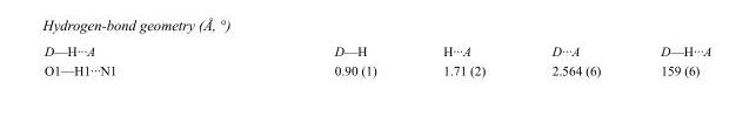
<table><tbody><tr><td>D—H···A</td><td>D—H</td><td>H···A</td><td>D···A</td><td>D—H···A</td></tr><tr><td>O1—H1···N1</td><td>0.90 (1)</td><td>1.71 (2)</td><td>2.564 (6)</td><td>159 (6)</td></tr></tbody></table>